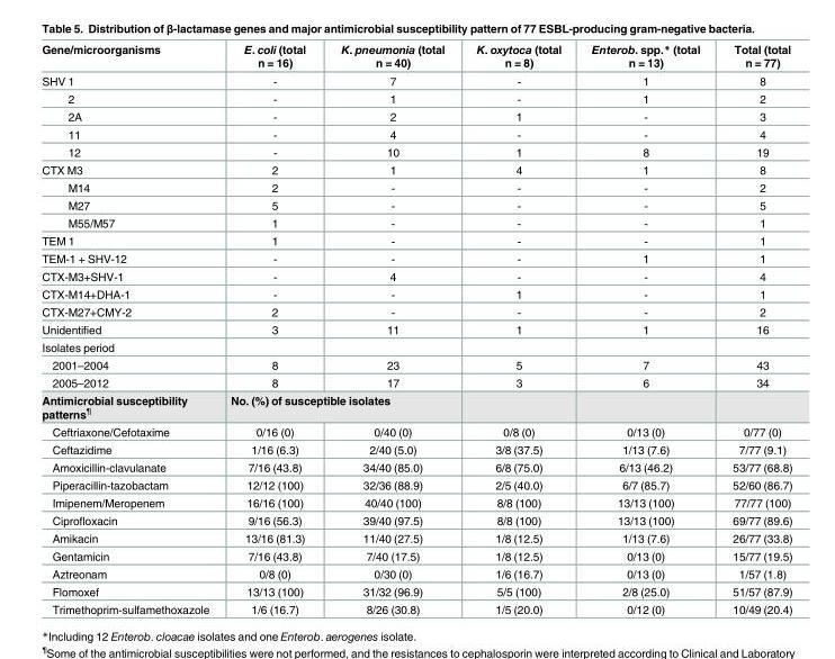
<table><thead><tr><td>Gene/microorganisms</td><td>E. coli (total n = 16)</td><td>K. pneumonia (total n = 40)</td><td>K. oxytoca (total n = 8)</td><td>Enterob. spp.* (total n = 13)</td><td>Total (total n = 77)</td></tr></thead><tbody><tr><td>SHV 1</td><td>-</td><td>7</td><td>-</td><td>1</td><td>8</td></tr><tr><td>2</td><td>-</td><td>1</td><td>-</td><td>1</td><td>2</td></tr><tr><td>2A</td><td>-</td><td>2</td><td>1</td><td>-</td><td>3</td></tr><tr><td>11</td><td>-</td><td>4</td><td>-</td><td>-</td><td>4</td></tr><tr><td>12</td><td>-</td><td>10</td><td>1</td><td>8</td><td>19</td></tr><tr><td>CTX M3</td><td>2</td><td>1</td><td>4</td><td>1</td><td>8</td></tr><tr><td>M14</td><td>2</td><td>-</td><td>-</td><td>-</td><td>2</td></tr><tr><td>M27</td><td>5</td><td>-</td><td>-</td><td>-</td><td>5</td></tr><tr><td>M55/M57</td><td>1</td><td>-</td><td>-</td><td>-</td><td>1</td></tr><tr><td>TEM 1</td><td>1</td><td>-</td><td>-</td><td>-</td><td>1</td></tr><tr><td>TEM-1 + SHV-12</td><td>-</td><td>-</td><td>-</td><td>1</td><td>1</td></tr><tr><td>CTX-M3+SHV-1</td><td>-</td><td>4</td><td>-</td><td>-</td><td>4</td></tr><tr><td>CTX-M14+DHA-1</td><td>-</td><td>-</td><td>1</td><td>-</td><td>1</td></tr><tr><td>CTX-M27+CMY-2</td><td>2</td><td>-</td><td>-</td><td>-</td><td>2</td></tr><tr><td>Unidentified</td><td>3</td><td>11</td><td>1</td><td>1</td><td>16</td></tr><tr><td colspan="6">Isolates period</td></tr><tr><td>2001–2004</td><td>8</td><td>23</td><td>5</td><td>7</td><td>43</td></tr><tr><td>2005–2012</td><td>8</td><td>17</td><td>3</td><td>6</td><td>34</td></tr><tr><td>Antimicrobial susceptibility patterns<sup>¶</sup></td><td colspan="2">No. (%) of susceptible isolates</td><td></td><td></td><td></td></tr><tr><td>Ceftriaxone/Cefotaxime</td><td>0/16 (0)</td><td>0/40 (0)</td><td>0/8 (0)</td><td>0/13 (0)</td><td>0/77 (0)</td></tr><tr><td>Ceftazidime</td><td>1/16 (6.3)</td><td>2/40 (5.0)</td><td>3/8 (37.5)</td><td>1/13 (7.6)</td><td>7/77 (9.1)</td></tr><tr><td>Amoxicillin-clavulanate</td><td>7/16 (43.8)</td><td>34/40 (85.0)</td><td>6/8 (75.0)</td><td>6/13 (46.2)</td><td>53/77 (68.8)</td></tr><tr><td>Piperacillin-tazobactam</td><td>12/12 (100)</td><td>32/36 (88.9)</td><td>2/5 (40.0)</td><td>6/7 (85.7)</td><td>52/60 (86.7)</td></tr><tr><td>Imipenem/Meropenem</td><td>16/16 (100)</td><td>40/40 (100)</td><td>8/8 (100)</td><td>13/13 (100)</td><td>77/77 (100)</td></tr><tr><td>Ciprofloxacin</td><td>9/16 (56.3)</td><td>39/40 (97.5)</td><td>8/8 (100)</td><td>13/13 (100)</td><td>69/77 (89.6)</td></tr><tr><td>Amikacin</td><td>13/16 (81.3)</td><td>11/40 (27.5)</td><td>1/8 (12.5)</td><td>1/13 (7.6)</td><td>26/77 (33.8)</td></tr><tr><td>Gentamicin</td><td>7/16 (43.8)</td><td>7/40 (17.5)</td><td>1/8 (12.5)</td><td>0/13 (0)</td><td>15/77 (19.5)</td></tr><tr><td>Aztreonam</td><td>0/8 (0)</td><td>0/30 (0)</td><td>1/6 (16.7)</td><td>0/13 (0)</td><td>1/57 (1.8)</td></tr><tr><td>Flomoxef</td><td>13/13 (100)</td><td>31/32 (96.9)</td><td>5/5 (100)</td><td>2/8 (25.0)</td><td>51/57 (87.9)</td></tr><tr><td>Trimethoprim-sulfamethoxazole</td><td>1/6 (16.7)</td><td>8/26 (30.8)</td><td>1/5 (20.0)</td><td>0/12 (0)</td><td>10/49 (20.4)</td></tr></tbody></table>